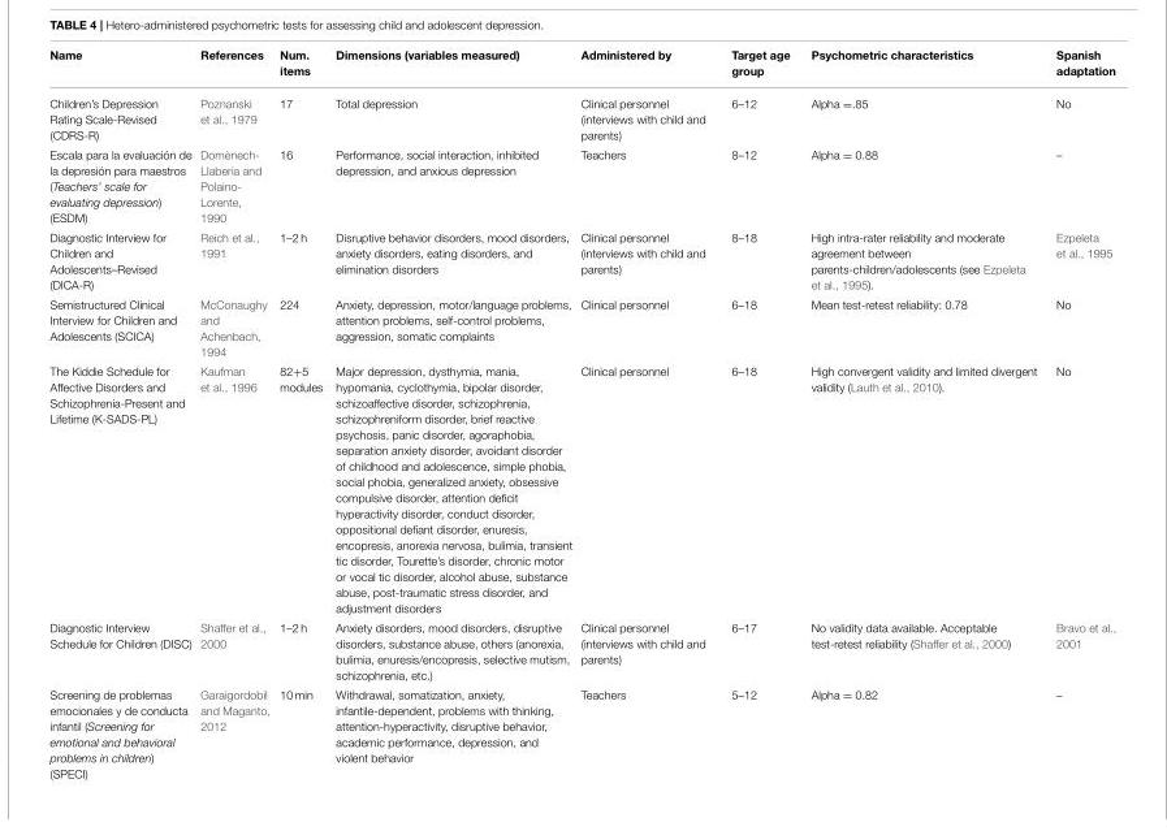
<table><thead><tr><td>Name</td><td>References</td><td>Num. items</td><td>Dimensions (variables measured)</td><td>Administered by</td><td>Target age group</td><td>Psychometric characteristics</td><td>Spanish adaptation</td></tr></thead><tbody><tr><td>Children’s Depression Rating Scale-Revised (CDRS-R)</td><td>Poznanski et al., 1979</td><td>17</td><td>Total depression</td><td>Clinical personnel (interviews with child and parents)</td><td>6–12</td><td>Alpha =.85</td><td>No</td></tr><tr><td>Escala para la evaluación de la depresión para maestros (Teachers’ scale for evaluating depression) (ESDM)</td><td>Domènech- Llaberia and Polaino- Lorente, 1990</td><td>16</td><td>Performance, social interaction, inhibited depression, and anxious depression</td><td>Teachers</td><td>8–12</td><td>Alpha = 0.88</td><td>–</td></tr><tr><td>Diagnostic Interview for Children and Adolescents–Revised (DICA-R)</td><td>Reich et al., 1991</td><td>1–2 h</td><td>Disruptive behavior disorders, mood disorders, anxiety disorders, eating disorders, and elimination disorders</td><td>Clinical personnel (interviews with child and parents)</td><td>8–18</td><td>High intra-rater reliability and moderate agreement between parents-children/adolescents (see Ezpeleta et al., 1995).</td><td>Ezpeleta et al., 1995</td></tr><tr><td>Semistructured Clinical Interview for Children and Adolescents (SCICA)</td><td>McConaughy and Achenbach, 1994</td><td>224</td><td>Anxiety, depression, motor/language problems, attention problems, self-control problems, aggression, somatic complaints</td><td>Clinical personnel</td><td>6–18</td><td>Mean test-retest reliability: 0.78</td><td>No</td></tr><tr><td>The Kiddie Schedule for Affective Disorders and Schizophrenia-Present and Lifetime (K-SADS-PL)</td><td>Kaufman et al., 1996</td><td>82+5 modules</td><td>Major depression, dysthymia, mania, hypomania, cyclothymia, bipolar disorder, schizoaffective disorder, schizophrenia, schizophreniform disorder, brief reactive psychosis, panic disorder, agoraphobia, separation anxiety disorder, avoidant disorder of childhood and adolescence, simple phobia, social phobia, generalized anxiety, obsessive compulsive disorder, attention deficit hyperactivity disorder, conduct disorder, oppositional defiant disorder, enuresis, encopresis, anorexia nervosa, bulimia, transient tic disorder, Tourette’s disorder, chronic motor or vocal tic disorder, alcohol abuse, substance abuse, post-traumatic stress disorder, and adjustment disorders</td><td>Clinical personnel</td><td>6–18</td><td>High convergent validity and limited divergent validity (Lauth et al., 2010).</td><td>No</td></tr><tr><td>Diagnostic Interview Schedule for Children (DISC)</td><td>Shaffer et al., 2000</td><td>1–2 h</td><td>Anxiety disorders, mood disorders, disruptive disorders, substance abuse, others (anorexia, bulimia, enuresis/encopresis, selective mutism, schizophrenia, etc.)</td><td>Clinical personnel (interviews with child and parents)</td><td>6–17</td><td>No validity data available. Acceptable test-retest reliability (Shaffer et al., 2000)</td><td>Bravo et al., 2001</td></tr><tr><td>Screening de problemas emocionales y de conducta infantil (Screening for emotional and behavioral problems in children) (SPECI)</td><td>Garaigordobil and Maganto, 2012</td><td>10 min</td><td>Withdrawal, somatization, anxiety, infantile-dependent, problems with thinking, attention-hyperactivity, disruptive behavior, academic performance, depression, and violent behavior</td><td>Teachers</td><td>5–12</td><td>Alpha = 0.82</td><td>–</td></tr></tbody></table>